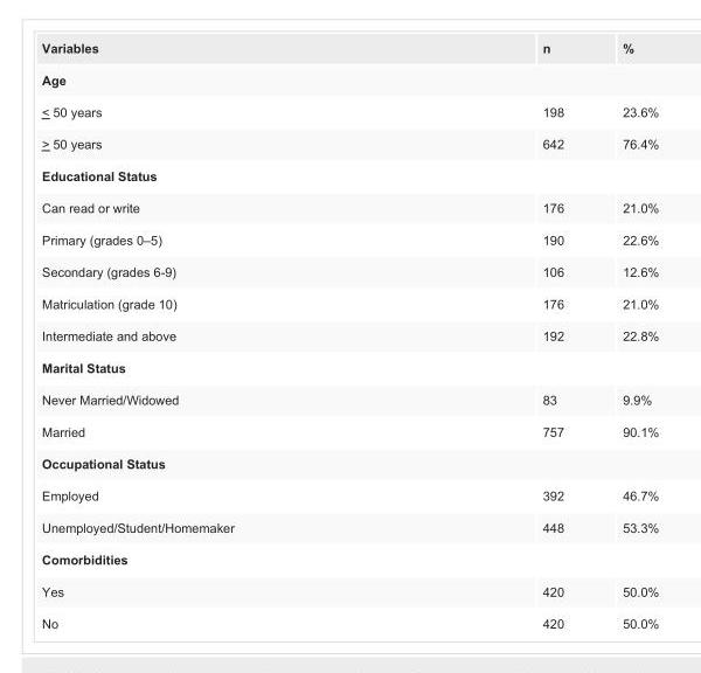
<table><tbody><tr><td>Variables</td><td>n</td><td>%</td></tr><tr><td colspan="3">Age</td></tr><tr><td>&lt; 50 years</td><td>198</td><td>23.6%</td></tr><tr><td>&gt; 50 years</td><td>642</td><td>76.4%</td></tr><tr><td colspan="3">Educational Status</td></tr><tr><td>Can read or write</td><td>176</td><td>21.0%</td></tr><tr><td>Primary (grades 0–5)</td><td>190</td><td>22.6%</td></tr><tr><td>Secondary (grades 6-9)</td><td>106</td><td>12.6%</td></tr><tr><td>Matriculation (grade 10)</td><td>176</td><td>21.0%</td></tr><tr><td>Intermediate and above</td><td>192</td><td>22.8%</td></tr><tr><td colspan="3">Marital Status</td></tr><tr><td>Never Married/Widowed</td><td>83</td><td>9.9%</td></tr><tr><td>Married</td><td>757</td><td>90.1%</td></tr><tr><td colspan="3">Occupational Status</td></tr><tr><td>Employed</td><td>392</td><td>46.7%</td></tr><tr><td>Unemployed/Student/Homemaker</td><td>448</td><td>53.3%</td></tr><tr><td colspan="3">Comorbidities</td></tr><tr><td>Yes</td><td>420</td><td>50.0%</td></tr><tr><td>No</td><td>420</td><td>50.0%</td></tr></tbody></table>